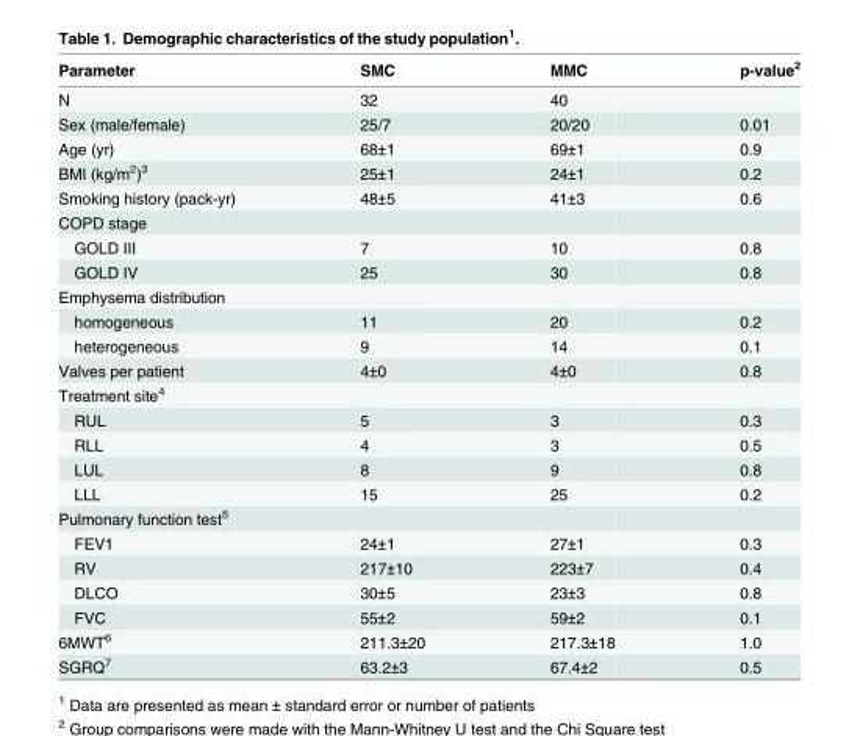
<table><thead><tr><td>Parameter</td><td>SMC</td><td>MMC</td><td>p-value<sup>2</sup></td></tr></thead><tbody><tr><td>N</td><td>32</td><td>40</td><td></td></tr><tr><td>Sex (male/female)</td><td>25/7</td><td>20/20</td><td>0.01</td></tr><tr><td>Age (yr)</td><td>68±1</td><td>69±1</td><td>0.9</td></tr><tr><td>BMI (kg/m<sup>2</sup>)<sup>3</sup></td><td>25±1</td><td>24±1</td><td>0.2</td></tr><tr><td>Smoking history (pack-yr)</td><td>48±5</td><td>41±3</td><td>0.6</td></tr><tr><td colspan="4">COPD stage</td></tr><tr><td>GOLD III</td><td>7</td><td>10</td><td>0.8</td></tr><tr><td>GOLD IV</td><td>25</td><td>30</td><td>0.8</td></tr><tr><td colspan="4">Emphysema distribution</td></tr><tr><td>homogeneous</td><td>11</td><td>20</td><td>0.2</td></tr><tr><td>heterogeneous</td><td>9</td><td>14</td><td>0.1</td></tr><tr><td>Valves per patient</td><td>4±0</td><td>4±0</td><td>0.8</td></tr><tr><td colspan="4">Treatment site<sup>4</sup></td></tr><tr><td>RUL</td><td>5</td><td>3</td><td>0.3</td></tr><tr><td>RLL</td><td>4</td><td>3</td><td>0.5</td></tr><tr><td>LUL</td><td>8</td><td>9</td><td>0.8</td></tr><tr><td>LLL</td><td>15</td><td>25</td><td>0.2</td></tr><tr><td colspan="4">Pulmonary function test<sup>5</sup></td></tr><tr><td>FEV1</td><td>24±1</td><td>27±1</td><td>0.3</td></tr><tr><td>RV</td><td>217±10</td><td>223±7</td><td>0.4</td></tr><tr><td>DLCO</td><td>30±5</td><td>23±3</td><td>0.8</td></tr><tr><td>FVC</td><td>55±2</td><td>59±2</td><td>0.1</td></tr><tr><td>6MWT<sup>6</sup></td><td>211.3±20</td><td>217.3±18</td><td>1.0</td></tr><tr><td>SGRQ<sup>7</sup></td><td>63.2±3</td><td>67.4±2</td><td>0.5</td></tr></tbody></table>